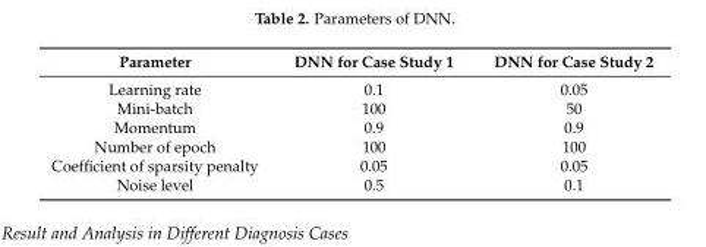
<table><thead><tr><td>Parameter</td><td>DNN for Case Study 1</td><td>DNN for Case Study 2</td></tr></thead><tbody><tr><td>Learning rate</td><td>0.1</td><td>0.05</td></tr><tr><td>Mini-batch</td><td>100</td><td>50</td></tr><tr><td>Momentum</td><td>0.9</td><td>0.9</td></tr><tr><td>Number of epoch</td><td>100</td><td>100</td></tr><tr><td>Coefficient of sparsity penalty</td><td>0.05</td><td>0.05</td></tr><tr><td>Noise level</td><td>0.5</td><td>0.1</td></tr></tbody></table>